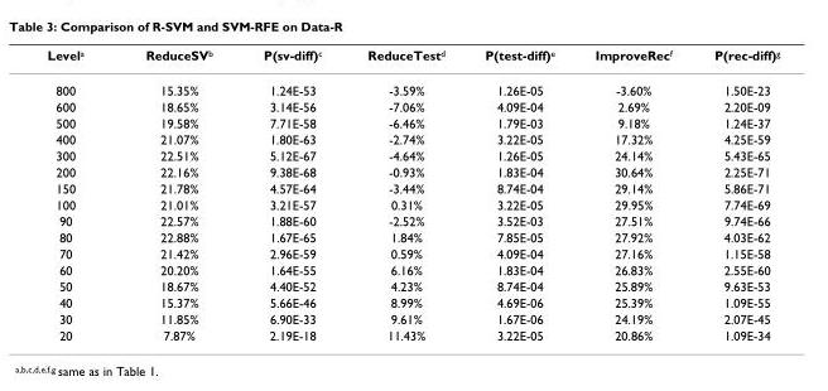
<table><thead><tr><td>Levela</td><td>ReduceSVb</td><td>P(sv-diff)c</td><td>ReduceTestd</td><td>P(test-diff)e</td><td>ImproveRecf</td><td>P(rec-diff)g</td></tr></thead><tbody><tr><td>800</td><td>15.35%</td><td>1.24E-53</td><td>-3.59%</td><td>1.26E-05</td><td>-3.60%</td><td>1.50E-23</td></tr><tr><td>600</td><td>18.65%</td><td>3.14E-56</td><td>-7.06%</td><td>4.09E-04</td><td>2.69%</td><td>2.20E-09</td></tr><tr><td>500</td><td>19.58%</td><td>7.71E-58</td><td>-6.46%</td><td>1.79E-03</td><td>9.18%</td><td>1.24E-37</td></tr><tr><td>400</td><td>21.07%</td><td>1.80E-63</td><td>-2.74%</td><td>3.22E-05</td><td>17.32%</td><td>4.25E-59</td></tr><tr><td>300</td><td>22.51%</td><td>5.12E-67</td><td>-4.64%</td><td>1.26E-05</td><td>24.14%</td><td>5.43E-65</td></tr><tr><td>200</td><td>22.16%</td><td>9.38E-68</td><td>-0.93%</td><td>1.83E-04</td><td>30.64%</td><td>2.25E-71</td></tr><tr><td>150</td><td>21.78%</td><td>4.57E-64</td><td>-3.44%</td><td>8.74E-04</td><td>29.14%</td><td>5.86E-71</td></tr><tr><td>100</td><td>21.01%</td><td>3.21E-57</td><td>0.31%</td><td>3.22E-05</td><td>29.95%</td><td>7.74E-69</td></tr><tr><td>90</td><td>22.57%</td><td>1.88E-60</td><td>-2.52%</td><td>3.52E-03</td><td>27.51%</td><td>9.74E-66</td></tr><tr><td>80</td><td>22.88%</td><td>1.67E-65</td><td>1.84%</td><td>7.85E-05</td><td>27.92%</td><td>4.03E-62</td></tr><tr><td>70</td><td>21.42%</td><td>2.96E-59</td><td>0.59%</td><td>4.09E-04</td><td>27.16%</td><td>1.15E-58</td></tr><tr><td>60</td><td>20.20%</td><td>1.64E-55</td><td>6.16%</td><td>1.83E-04</td><td>26.83%</td><td>2.55E-60</td></tr><tr><td>50</td><td>18.67%</td><td>4.40E-52</td><td>4.23%</td><td>8.74E-04</td><td>25.89%</td><td>9.63E-53</td></tr><tr><td>40</td><td>15.37%</td><td>5.66E-46</td><td>8.99%</td><td>4.69E-06</td><td>25.39%</td><td>1.09E-55</td></tr><tr><td>30</td><td>11.85%</td><td>6.90E-33</td><td>9.61%</td><td>1.67E-06</td><td>24.19%</td><td>2.07E-45</td></tr><tr><td>20</td><td>7.87%</td><td>2.19E-18</td><td>11.43%</td><td>3.22E-05</td><td>20.86%</td><td>1.09E-34</td></tr></tbody></table>